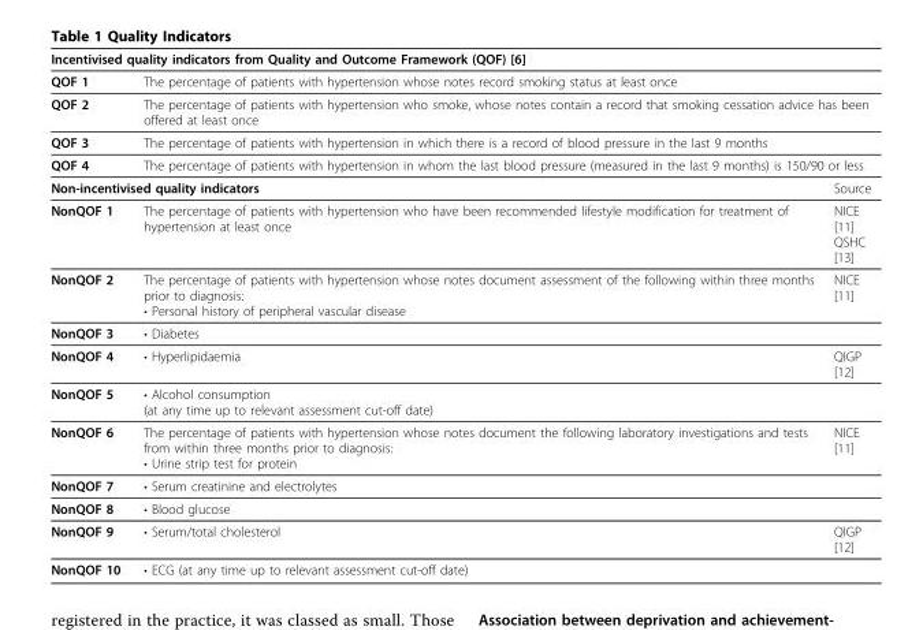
<table><thead><tr><td colspan="3">Incentivised quality indicators from Quality and Outcome Framework (QOF) [6]</td></tr></thead><tbody><tr><td>QOF 1</td><td colspan="2">The percentage of patients with hypertension whose notes record smoking status at least once</td></tr><tr><td>QOF 2</td><td colspan="2">The percentage of patients with hypertension who smoke, whose notes contain a record that smoking cessation advice has been offered at least once</td></tr><tr><td>QOF 3</td><td colspan="2">The percentage of patients with hypertension in which there is a record of blood pressure in the last 9 months</td></tr><tr><td>QOF 4</td><td colspan="2">The percentage of patients with hypertension in whom the last blood pressure (measured in the last 9 months) is 150/90 or less</td></tr><tr><td colspan="2">Non-incentivised quality indicators</td><td>Source</td></tr><tr><td>NonQOF 1</td><td>The percentage of patients with hypertension who have been recommended lifestyle modification for treatment of hypertension at least once</td><td>NICE [11] QSHC [13]</td></tr><tr><td>NonQOF 2</td><td>The percentage of patients with hypertension whose notes document assessment of the following within three months prior to diagnosis: • Personal history of peripheral vascular disease</td><td>NICE [11]</td></tr><tr><td>NonQOF 3</td><td>• Diabetes</td><td></td></tr><tr><td>NonQOF 4</td><td>• Hyperlipidaemia</td><td>QIGP [12]</td></tr><tr><td>NonQOF 5</td><td>• Alcohol consumption (at any time up to relevant assessment cut-off date)</td><td></td></tr><tr><td>NonQOF 6</td><td>The percentage of patients with hypertension whose notes document the following laboratory investigations and tests from within three months prior to diagnosis: • Urine strip test for protein</td><td>NICE [11]</td></tr><tr><td>NonQOF 7</td><td>• Serum creatinine and electrolytes</td><td></td></tr><tr><td>NonQOF 8</td><td>• Blood glucose</td><td></td></tr><tr><td>NonQOF 9</td><td>• Serum/total cholesterol</td><td>QIGP [12]</td></tr><tr><td>NonQOF 10</td><td>• ECG (at any time up to relevant assessment cut-off date)</td><td></td></tr></tbody></table>